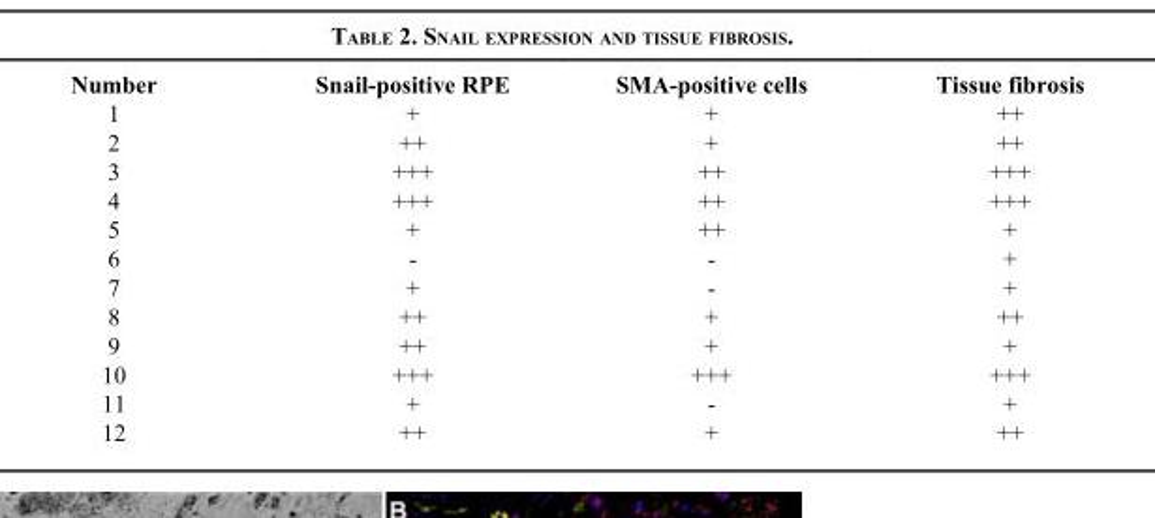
<table><thead><tr><td>Number</td><td>Snail-positive RPE</td><td>SMA-positive cells</td><td>Tissue fibrosis</td></tr></thead><tbody><tr><td>1</td><td>+</td><td>+</td><td>++</td></tr><tr><td>2</td><td>++</td><td>+</td><td>++</td></tr><tr><td>3</td><td>+++</td><td>++</td><td>+++</td></tr><tr><td>4</td><td>+++</td><td>++</td><td>+++</td></tr><tr><td>5</td><td>+</td><td>++</td><td>+</td></tr><tr><td>6</td><td>-</td><td>-</td><td>+</td></tr><tr><td>7</td><td>+</td><td>-</td><td>+</td></tr><tr><td>8</td><td>++</td><td>+</td><td>++</td></tr><tr><td>9</td><td>++</td><td>+</td><td>+</td></tr><tr><td>10</td><td>+++</td><td>+++</td><td>+++</td></tr><tr><td>11</td><td>+</td><td>-</td><td>+</td></tr><tr><td>12</td><td>++</td><td>+</td><td>++</td></tr></tbody></table>